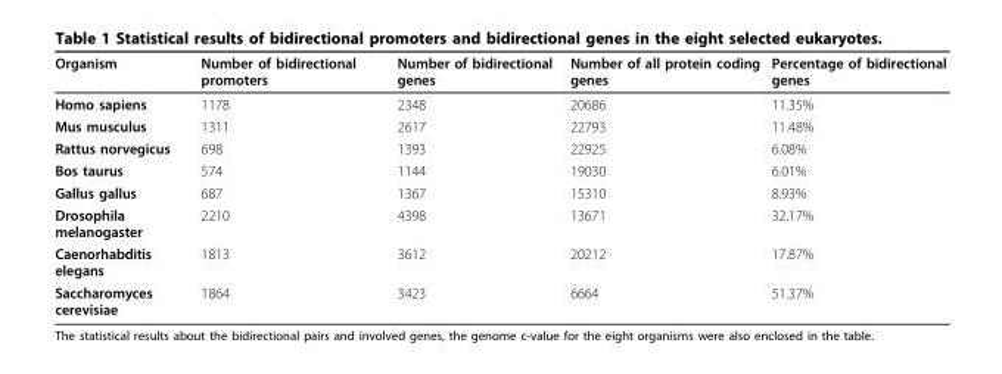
<table><thead><tr><td>Organism</td><td>Number of bidirectional promoters</td><td>Number of bidirectional genes</td><td>Number of all protein coding genes</td><td>Percentage of bidirectional genes</td></tr></thead><tbody><tr><td>Homo sapiens</td><td>1178</td><td>2348</td><td>20686</td><td>11.35%</td></tr><tr><td>Mus musculus</td><td>1311</td><td>2617</td><td>22793</td><td>11.48%</td></tr><tr><td>Rattus norvegicus</td><td>698</td><td>1393</td><td>22925</td><td>6.08%</td></tr><tr><td>Bos taurus</td><td>574</td><td>1144</td><td>19030</td><td>6.01%</td></tr><tr><td>Gallus gallus</td><td>687</td><td>1367</td><td>15310</td><td>8.93%</td></tr><tr><td>Drosophila melanogaster</td><td>2210</td><td>4398</td><td>13671</td><td>32.17%</td></tr><tr><td>Caenorhabditis elegans</td><td>1813</td><td>3612</td><td>20212</td><td>17.87%</td></tr><tr><td>Saccharomyces cerevisiae</td><td>1864</td><td>3423</td><td>6664</td><td>51.37%</td></tr></tbody></table>